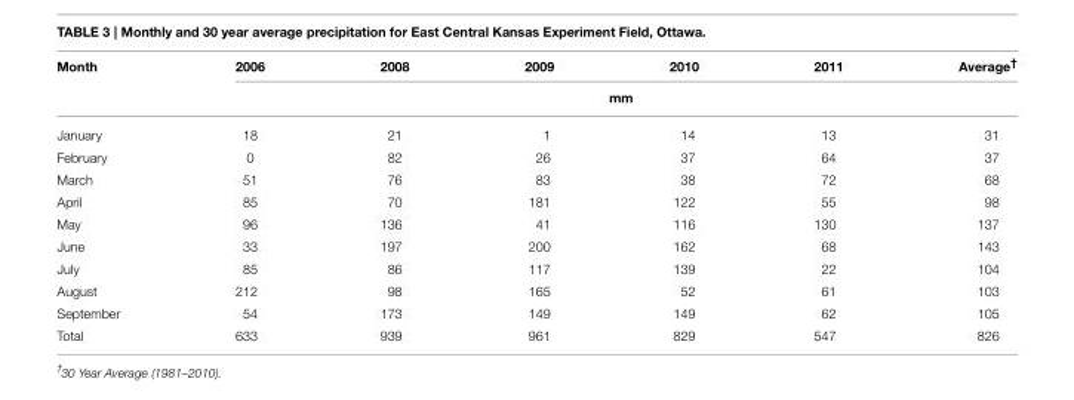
<table><thead><tr><td rowspan="2">Month</td><td>2006</td><td>2008</td><td>2009</td><td>2010</td><td>2011</td><td>Average<sup>†</sup></td></tr><tr><td colspan="6">mm</td></tr></thead><tbody><tr><td>January</td><td>18</td><td>21</td><td>1</td><td>14</td><td>13</td><td>31</td></tr><tr><td>February</td><td>0</td><td>82</td><td>26</td><td>37</td><td>64</td><td>37</td></tr><tr><td>March</td><td>51</td><td>76</td><td>83</td><td>38</td><td>72</td><td>68</td></tr><tr><td>April</td><td>85</td><td>70</td><td>181</td><td>122</td><td>55</td><td>98</td></tr><tr><td>May</td><td>96</td><td>136</td><td>41</td><td>116</td><td>130</td><td>137</td></tr><tr><td>June</td><td>33</td><td>197</td><td>200</td><td>162</td><td>68</td><td>143</td></tr><tr><td>July</td><td>85</td><td>86</td><td>117</td><td>139</td><td>22</td><td>104</td></tr><tr><td>August</td><td>212</td><td>98</td><td>165</td><td>52</td><td>61</td><td>103</td></tr><tr><td>September</td><td>54</td><td>173</td><td>149</td><td>149</td><td>62</td><td>105</td></tr><tr><td>Total</td><td>633</td><td>939</td><td>961</td><td>829</td><td>547</td><td>826</td></tr></tbody></table>